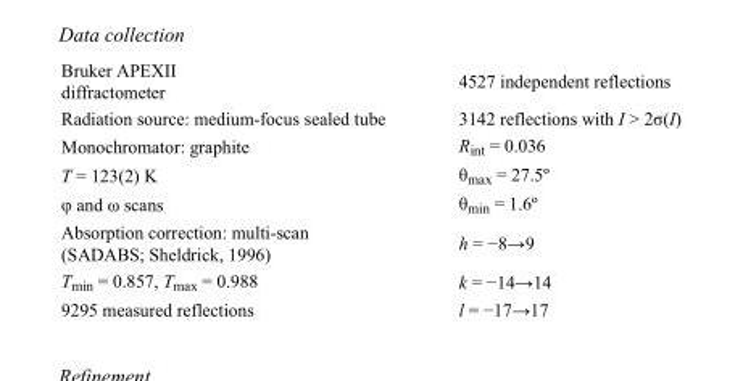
<table><tbody><tr><td>Bruker APEXII diffractometer</td><td>4527 independent reflections</td></tr><tr><td>Radiation source: medium-focus sealed tube</td><td>3142 reflections with I &gt; 2σ(I)</td></tr><tr><td>Monochromator: graphite</td><td>R<sub>int</sub> = 0.036</td></tr><tr><td>T = 123(2) K</td><td>θ<sub>max</sub> = 27.5º</td></tr><tr><td>φ and ω scans</td><td>θ<sub>min</sub> = 1.6º</td></tr><tr><td>Absorption correction: multi-scan (SADABS; Sheldrick, 1996)</td><td>h = −8→9</td></tr><tr><td>T<sub>min</sub> = 0.857, T<sub>max</sub> = 0.988</td><td>k = −14→14</td></tr><tr><td>9295 measured reflections</td><td>l = −17→17</td></tr></tbody></table>